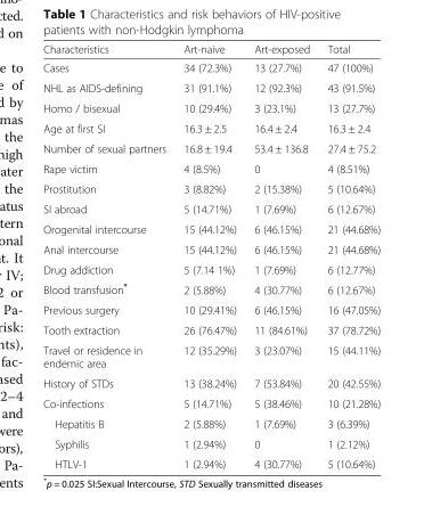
<table><thead><tr><td>Characteristics</td><td>Art-naive</td><td>Art-exposed</td><td>Total</td></tr></thead><tbody><tr><td>Cases</td><td>34 (72.3%)</td><td>13 (27.7%)</td><td>47 (100%)</td></tr><tr><td>NHL as AIDS-defining</td><td>31 (91.1%)</td><td>12 (92.3%)</td><td>43 (91.5%)</td></tr><tr><td>Homo / bisexual</td><td>10 (29.4%)</td><td>3 (23.1%)</td><td>13 (27.7%)</td></tr><tr><td>Age at first SI</td><td>16.3 ± 2.5</td><td>16.4 ± 2.4</td><td>16.3 ± 2.4</td></tr><tr><td>Number of sexual partners</td><td>16.8 ± 19.4</td><td>53.4 ± 136.8</td><td>27.4 ± 75.2</td></tr><tr><td>Rape victim</td><td>4 (8.5%)</td><td>0</td><td>4 (8.51%)</td></tr><tr><td>Prostitution</td><td>3 (8.82%)</td><td>2 (15.38%)</td><td>5 (10.64%)</td></tr><tr><td>SI abroad</td><td>5 (14.71%)</td><td>1 (7.69%)</td><td>6 (12.67%)</td></tr><tr><td>Orogenital intercourse</td><td>15 (44.12%)</td><td>6 (46.15%)</td><td>21 (44.68%)</td></tr><tr><td>Anal intercourse</td><td>15 (44.12%)</td><td>6 (46.15%)</td><td>21 (44.68%)</td></tr><tr><td>Drug addiction</td><td>5 (7.14 1%)</td><td>1 (7.69%)</td><td>6 (12.77%)</td></tr><tr><td>Blood transfusion*</td><td>2 (5.88%)</td><td>4 (30.77%)</td><td>6 (12.67%)</td></tr><tr><td>Previous surgery</td><td>10 (29.41%)</td><td>6 (46.15%)</td><td>16 (47.05%)</td></tr><tr><td>Tooth extraction</td><td>26 (76.47%)</td><td>11 (84.61%)</td><td>37 (78.72%)</td></tr><tr><td>Travel or residence in endemic area</td><td>12 (35.29%)</td><td>3 (23.07%)</td><td>15 (44.11%)</td></tr><tr><td>History of STDs</td><td>13 (38.24%)</td><td>7 (53.84%)</td><td>20 (42.55%)</td></tr><tr><td>Co-infections</td><td>5 (14.71%)</td><td>5 (38.46%)</td><td>10 (21.28%)</td></tr><tr><td>Hepatitis B</td><td>2 (5.88%)</td><td>1 (7.69%)</td><td>3 (6.39%)</td></tr><tr><td>Syphilis</td><td>1 (2.94%)</td><td>0</td><td>1 (2.12%)</td></tr><tr><td>HTLV-1</td><td>1 (2.94%)</td><td>4 (30.77%)</td><td>5 (10.64%)</td></tr></tbody></table>